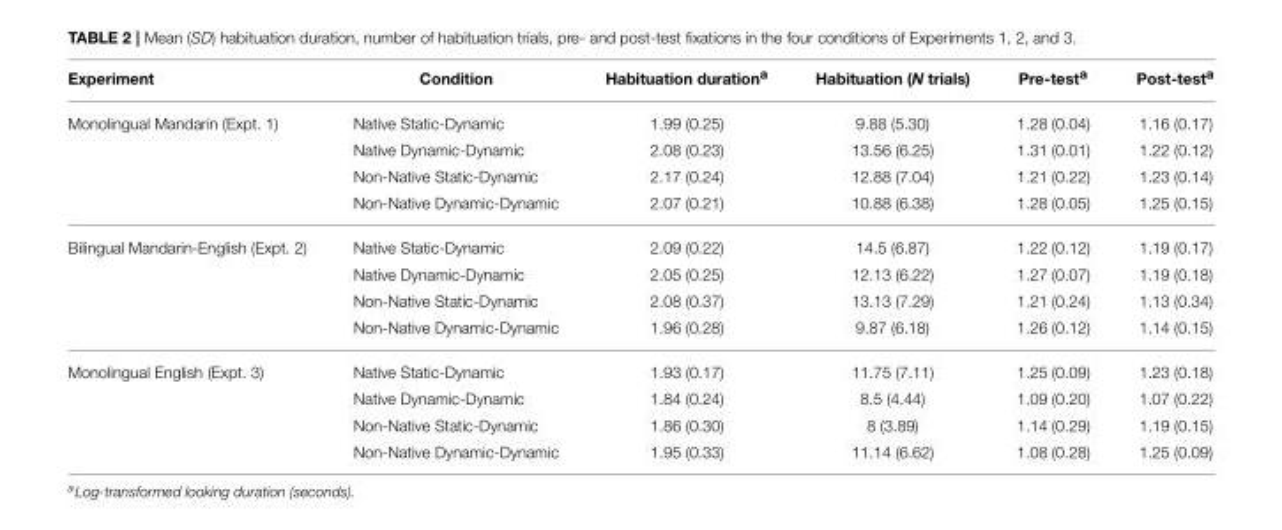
<table><thead><tr><td>Experiment</td><td>Condition</td><td>Habituation duration<sup>a</sup></td><td>Habituation (N trials)</td><td>Pre-test<sup>a</sup></td><td>Post-test<sup>a</sup></td></tr></thead><tbody><tr><td rowspan="4">Monolingual Mandarin (Expt. 1)</td><td>Native Static-Dynamic</td><td>1.99 (0.25)</td><td>9.88 (5.30)</td><td>1.28 (0.04)</td><td>1.16 (0.17)</td></tr><tr><td>Native Dynamic-Dynamic</td><td>2.08 (0.23)</td><td>13.56 (6.25)</td><td>1.31 (0.01)</td><td>1.22 (0.12)</td></tr><tr><td>Non-Native Static-Dynamic</td><td>2.17 (0.24)</td><td>12.88 (7.04)</td><td>1.21 (0.22)</td><td>1.23 (0.14)</td></tr><tr><td>Non-Native Dynamic-Dynamic</td><td>2.07 (0.21)</td><td>10.88 (6.38)</td><td>1.28 (0.05)</td><td>1.25 (0.15)</td></tr><tr><td rowspan="4">Bilingual Mandarin-English (Expt. 2)</td><td>Native Static-Dynamic</td><td>2.09 (0.22)</td><td>14.5 (6.87)</td><td>1.22 (0.12)</td><td>1.19 (0.17)</td></tr><tr><td>Native Dynamic-Dynamic</td><td>2.05 (0.25)</td><td>12.13 (6.22)</td><td>1.27 (0.07)</td><td>1.19 (0.18)</td></tr><tr><td>Non-Native Static-Dynamic</td><td>2.08 (0.37)</td><td>13.13 (7.29)</td><td>1.21 (0.24)</td><td>1.13 (0.34)</td></tr><tr><td>Non-Native Dynamic-Dynamic</td><td>1.96 (0.28)</td><td>9.87 (6.18)</td><td>1.26 (0.12)</td><td>1.14 (0.15)</td></tr><tr><td rowspan="4">Monolingual English (Expt. 3)</td><td>Native Static-Dynamic</td><td>1.93 (0.17)</td><td>11.75 (7.11)</td><td>1.25 (0.09)</td><td>1.23 (0.18)</td></tr><tr><td>Native Dynamic-Dynamic</td><td>1.84 (0.24)</td><td>8.5 (4.44)</td><td>1.09 (0.20)</td><td>1.07 (0.22)</td></tr><tr><td>Non-Native Static-Dynamic</td><td>1.86 (0.30)</td><td>8 (3.89)</td><td>1.14 (0.29)</td><td>1.19 (0.15)</td></tr><tr><td>Non-Native Dynamic-Dynamic</td><td>1.95 (0.33)</td><td>11.14 (6.62)</td><td>1.08 (0.28)</td><td>1.25 (0.09)</td></tr></tbody></table>